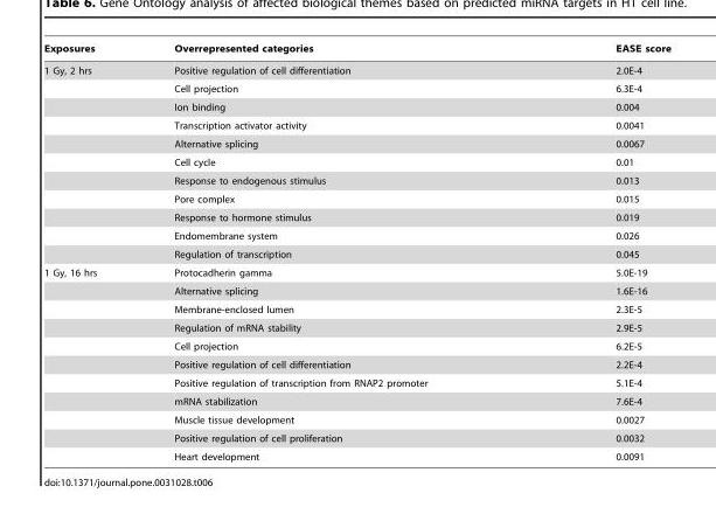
<table><thead><tr><td>Exposures</td><td>Overrepresented categories</td><td>EASE score</td></tr></thead><tbody><tr><td rowspan="11">1 Gy, 2 hrs</td><td>Positive regulation of cell differentiation</td><td>2.0E-4</td></tr><tr><td>Cell projection</td><td>6.3E-4</td></tr><tr><td>Ion binding</td><td>0.004</td></tr><tr><td>Transcription activator activity</td><td>0.0041</td></tr><tr><td>Alternative splicing</td><td>0.0067</td></tr><tr><td>Cell cycle</td><td>0.01</td></tr><tr><td>Response to endogenous stimulus</td><td>0.013</td></tr><tr><td>Pore complex</td><td>0.015</td></tr><tr><td>Response to hormone stimulus</td><td>0.019</td></tr><tr><td>Endomembrane system</td><td>0.026</td></tr><tr><td>Regulation of transcription</td><td>0.045</td></tr><tr><td rowspan="11">1 Gy, 16 hrs</td><td>Protocadherin gamma</td><td>5.0E-19</td></tr><tr><td>Alternative splicing</td><td>1.6E-16</td></tr><tr><td>Membrane-enclosed lumen</td><td>2.3E-5</td></tr><tr><td>Regulation of mRNA stability</td><td>2.9E-5</td></tr><tr><td>Cell projection</td><td>6.2E-5</td></tr><tr><td>Positive regulation of cell differentiation</td><td>2.2E-4</td></tr><tr><td>Positive regulation of transcription from RNAP2 promoter</td><td>5.1E-4</td></tr><tr><td>mRNA stabilization</td><td>7.6E-4</td></tr><tr><td>Muscle tissue development</td><td>0.0027</td></tr><tr><td>Positive regulation of cell proliferation</td><td>0.0032</td></tr><tr><td>Heart development</td><td>0.0091</td></tr></tbody></table>